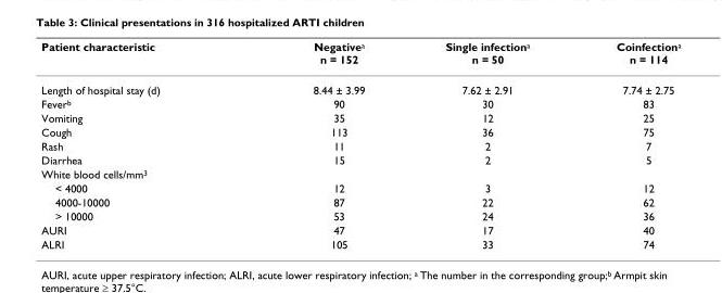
<table><thead><tr><td>Patient characteristic</td><td>Negative<sup>a</sup> n = 152</td><td>Single infection<sup>a</sup> n = 50</td><td>Coinfection<sup>a</sup> n = 114</td></tr></thead><tbody><tr><td>Length of hospital stay (d)</td><td>8.44 ± 3.99</td><td>7.62 ± 2.91</td><td>7.74 ± 2.75</td></tr><tr><td>Fever<sup>b</sup></td><td>90</td><td>30</td><td>83</td></tr><tr><td>Vomiting</td><td>35</td><td>12</td><td>25</td></tr><tr><td>Cough</td><td>113</td><td>36</td><td>75</td></tr><tr><td>Rash</td><td>11</td><td>2</td><td>7</td></tr><tr><td>Diarrhea</td><td>15</td><td>2</td><td>5</td></tr><tr><td colspan="4">White blood cells/mm<sup>3</sup></td></tr><tr><td>&lt; 4000</td><td>12</td><td>3</td><td>12</td></tr><tr><td>4000-10000</td><td>87</td><td>22</td><td>62</td></tr><tr><td>&gt; 10000</td><td>53</td><td>24</td><td>36</td></tr><tr><td>AURI</td><td>47</td><td>17</td><td>40</td></tr><tr><td>ALRI</td><td>105</td><td>33</td><td>74</td></tr></tbody></table>